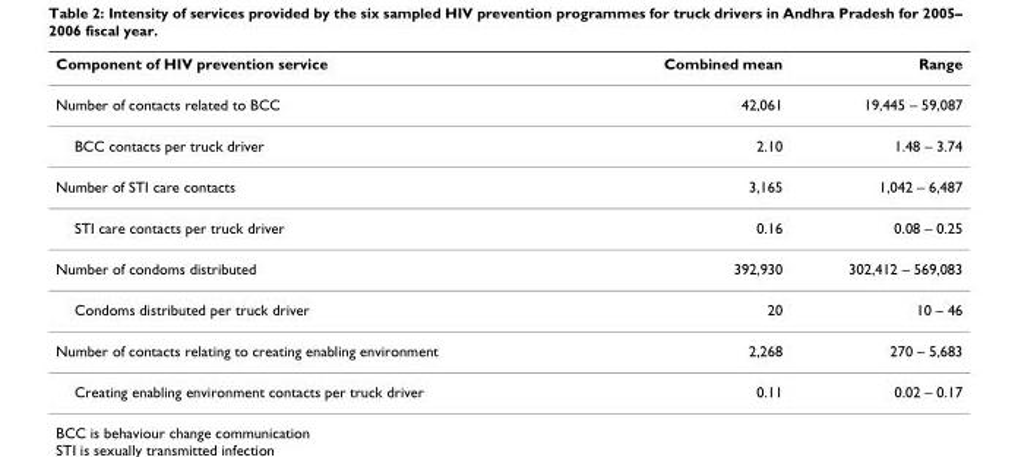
<table><thead><tr><td>Component of HIV prevention service</td><td>Combined mean</td><td>Range</td></tr></thead><tbody><tr><td>Number of contacts related to BCC</td><td>42,061</td><td>19,445 – 59,087</td></tr><tr><td>BCC contacts per truck driver</td><td>2.10</td><td>1.48 – 3.74</td></tr><tr><td>Number of STI care contacts</td><td>3,165</td><td>1,042 – 6,487</td></tr><tr><td>STI care contacts per truck driver</td><td>0.16</td><td>0.08 – 0.25</td></tr><tr><td>Number of condoms distributed</td><td>392,930</td><td>302,412 – 569,083</td></tr><tr><td>Condoms distributed per truck driver</td><td>20</td><td>10 – 46</td></tr><tr><td>Number of contacts relating to creating enabling environment</td><td>2,268</td><td>270 – 5,683</td></tr><tr><td>Creating enabling environment contacts per truck driver</td><td>0.11</td><td>0.02 – 0.17</td></tr></tbody></table>